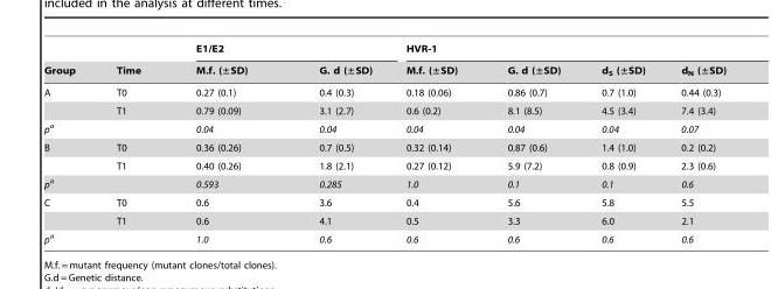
<table><thead><tr><td rowspan="2">Group</td><td rowspan="2">Time</td><td colspan="2">E1/E2</td><td colspan="4">HVR-1</td></tr><tr><td>M.f. (±SD)</td><td>G. d (±SD)</td><td>M.f. (±SD)</td><td>G. d (±SD)</td><td>d<sub>S</sub> (±SD)</td><td>d<sub>N</sub> (±SD)</td></tr></thead><tbody><tr><td rowspan="2">A</td><td>T0</td><td>0.27 (0.1)</td><td>0.4 (0.3)</td><td>0.18 (0.06)</td><td>0.86 (0.7)</td><td>0.7 (1.0)</td><td>0.44 (0.3)</td></tr><tr><td>T1</td><td>0.79 (0.09)</td><td>3.1 (2.7)</td><td>0.6 (0.2)</td><td>8.1 (8.5)</td><td>4.5 (3.4)</td><td>7.4 (3.4)</td></tr><tr><td>p<sup>a</sup></td><td></td><td>0.04</td><td>0.04</td><td>0.04</td><td>0.04</td><td>0.04</td><td>0.07</td></tr><tr><td rowspan="2">B</td><td>T0</td><td>0.36 (0.26)</td><td>0.7 (0.5)</td><td>0.32 (0.14)</td><td>0.87 (0.6)</td><td>1.4 (1.0)</td><td>0.2 (0.2)</td></tr><tr><td>T1</td><td>0.40 (0.26)</td><td>1.8 (2.1)</td><td>0.27 (0.12)</td><td>5.9 (7.2)</td><td>0.8 (0.9)</td><td>2.3 (0.6)</td></tr><tr><td>p<sup>a</sup></td><td></td><td>0.593</td><td>0.285</td><td>1.0</td><td>0.1</td><td>0.1</td><td>0.6</td></tr><tr><td rowspan="2">C</td><td>T0</td><td>0.6</td><td>3.6</td><td>0.4</td><td>5.6</td><td>5.8</td><td>5.5</td></tr><tr><td>T1</td><td>0.6</td><td>4.1</td><td>0.5</td><td>3.3</td><td>6.0</td><td>2.1</td></tr><tr><td>p<sup>a</sup></td><td></td><td>1.0</td><td>0.6</td><td>0.6</td><td>0.6</td><td>0.6</td><td>0.6</td></tr></tbody></table>